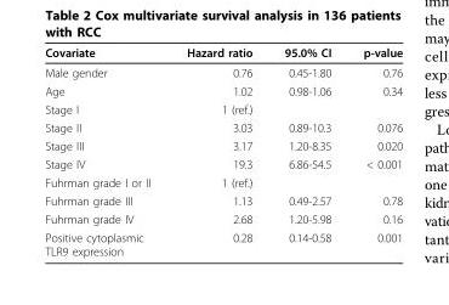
<table><thead><tr><td>Covariate</td><td>Hazard ratio</td><td>95.0% CI</td><td>p-value</td></tr></thead><tbody><tr><td>Male gender</td><td>0.76</td><td>0.45-1.80</td><td>0.76</td></tr><tr><td>Age</td><td>1.02</td><td>0.98-1.06</td><td>0.34</td></tr><tr><td>Stage I</td><td>1 (ref.)</td><td></td><td></td></tr><tr><td>Stage II</td><td>3.03</td><td>0.89-10.3</td><td>0.076</td></tr><tr><td>Stage III</td><td>3.17</td><td>1.20-8.35</td><td>0.020</td></tr><tr><td>Stage IV</td><td>19.3</td><td>6.86-54.5</td><td>&lt; 0.001</td></tr><tr><td>Fuhrman grade I or II</td><td>1 (ref.)</td><td></td><td></td></tr><tr><td>Fuhrman grade III</td><td>1.13</td><td>0.49-2.57</td><td>0.78</td></tr><tr><td>Fuhrman grade IV</td><td>2.68</td><td>1.20-5.98</td><td>0.16</td></tr><tr><td>Positive cytoplasmic TLR9 expression</td><td>0.28</td><td>0.14-0.58</td><td>0.001</td></tr></tbody></table>